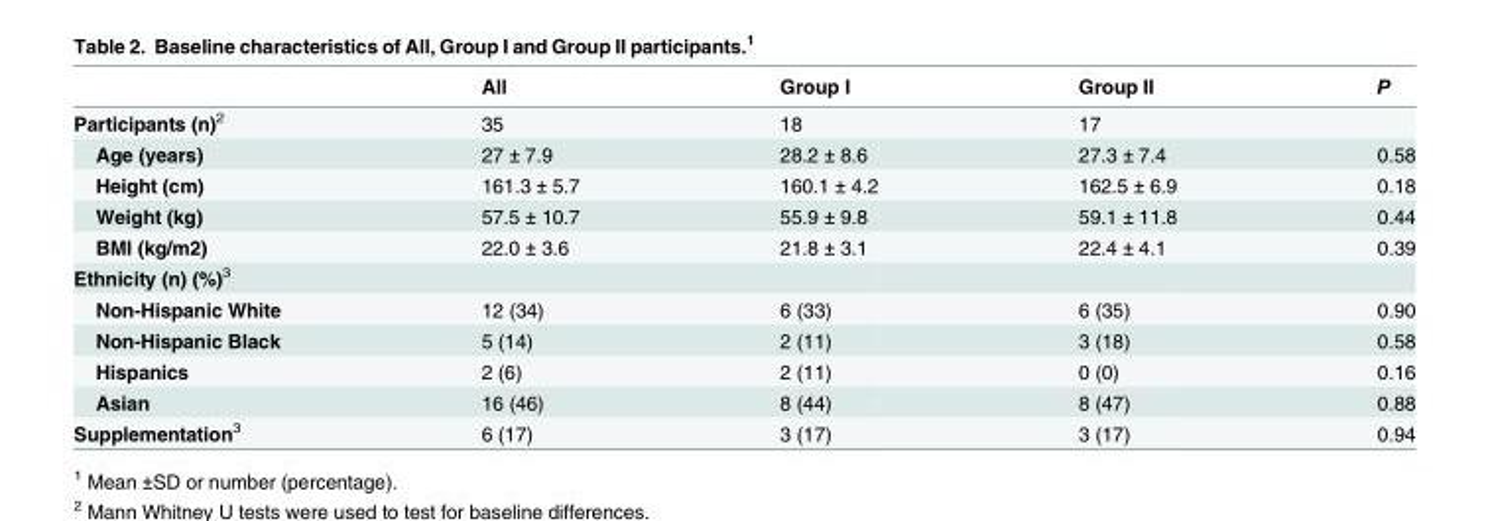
<table><thead><tr><td></td><td>All</td><td>Group I</td><td>Group II</td><td>P</td></tr></thead><tbody><tr><td>Participants (n)<sup>2</sup></td><td>35</td><td>18</td><td>17</td><td></td></tr><tr><td>Age (years)</td><td>27 ± 7.9</td><td>28.2 ± 8.6</td><td>27.3 ± 7.4</td><td>0.58</td></tr><tr><td>Height (cm)</td><td>161.3 ± 5.7</td><td>160.1 ± 4.2</td><td>162.5 ± 6.9</td><td>0.18</td></tr><tr><td>Weight (kg)</td><td>57.5 ± 10.7</td><td>55.9 ± 9.8</td><td>59.1 ± 11.8</td><td>0.44</td></tr><tr><td>BMI (kg/m2)</td><td>22.0 ± 3.6</td><td>21.8 ± 3.1</td><td>22.4 ± 4.1</td><td>0.39</td></tr><tr><td colspan="5">Ethnicity (n) (%)<sup>3</sup></td></tr><tr><td>Non-Hispanic White</td><td>12 (34)</td><td>6 (33)</td><td>6 (35)</td><td>0.90</td></tr><tr><td>Non-Hispanic Black</td><td>5 (14)</td><td>2 (11)</td><td>3 (18)</td><td>0.58</td></tr><tr><td>Hispanics</td><td>2 (6)</td><td>2 (11)</td><td>0 (0)</td><td>0.16</td></tr><tr><td>Asian</td><td>16 (46)</td><td>8 (44)</td><td>8 (47)</td><td>0.88</td></tr><tr><td>Supplementation<sup>3</sup></td><td>6 (17)</td><td>3 (17)</td><td>3 (17)</td><td>0.94</td></tr></tbody></table>